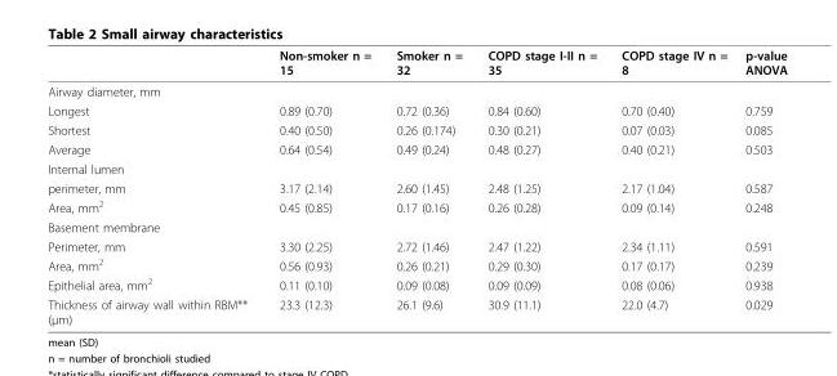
<table><thead><tr><td></td><td>Non-smoker n = 15</td><td>Smoker n = 32</td><td>COPD stage I-II n = 35</td><td>COPD stage IV n = 8</td><td>p-value ANOVA</td></tr></thead><tbody><tr><td colspan="6">Airway diameter, mm</td></tr><tr><td>Longest</td><td>0.89 (0.70)</td><td>0.72 (0.36)</td><td>0.84 (0.60)</td><td>0.70 (0.40)</td><td>0.759</td></tr><tr><td>Shortest</td><td>0.40 (0.50)</td><td>0.26 (0.174)</td><td>0.30 (0.21)</td><td>0.07 (0.03)</td><td>0.085</td></tr><tr><td>Average</td><td>0.64 (0.54)</td><td>0.49 (0.24)</td><td>0.48 (0.27)</td><td>0.40 (0.21)</td><td>0.503</td></tr><tr><td colspan="6">Internal lumen</td></tr><tr><td>perimeter, mm</td><td>3.17 (2.14)</td><td>2.60 (1.45)</td><td>2.48 (1.25)</td><td>2.17 (1.04)</td><td>0.587</td></tr><tr><td>Area, mm<sup>2</sup></td><td>0.45 (0.85)</td><td>0.17 (0.16)</td><td>0.26 (0.28)</td><td>0.09 (0.14)</td><td>0.248</td></tr><tr><td colspan="6">Basement membrane</td></tr><tr><td>Perimeter, mm</td><td>3.30 (2.25)</td><td>2.72 (1.46)</td><td>2.47 (1.22)</td><td>2.34 (1.11)</td><td>0.591</td></tr><tr><td>Area, mm<sup>2</sup></td><td>0.56 (0.93)</td><td>0.26 (0.21)</td><td>0.29 (0.30)</td><td>0.17 (0.17)</td><td>0.239</td></tr><tr><td>Epithelial area, mm<sup>2</sup></td><td>0.11 (0.10)</td><td>0.09 (0.08)</td><td>0.09 (0.09)</td><td>0.08 (0.06)</td><td>0.938</td></tr><tr><td>Thickness of airway wall within RBM** (μm)</td><td>23.3 (12.3)</td><td>26.1 (9.6)</td><td>30.9 (11.1)</td><td>22.0 (4.7)</td><td>0.029</td></tr></tbody></table>